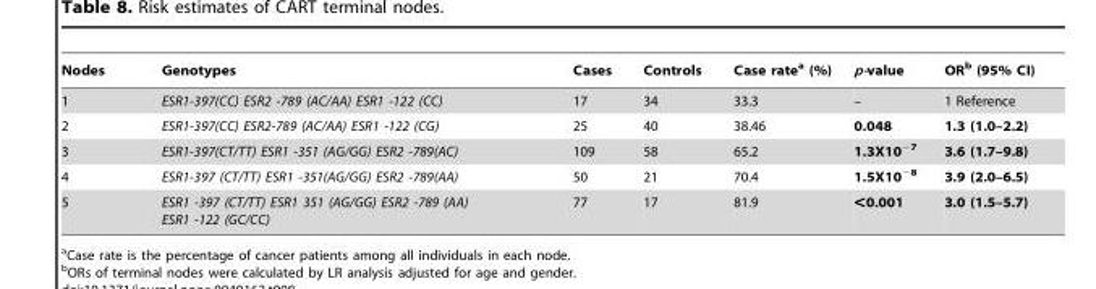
<table><thead><tr><td>Nodes</td><td>Genotypes</td><td>Cases</td><td>Controls</td><td>Case rate<sup>a</sup> (%)</td><td>p-value</td><td>OR<sup>b</sup> (95% CI)</td></tr></thead><tbody><tr><td>1</td><td>ESR1-397(CC) ESR2 -789 (AC/AA) ESR1 -122 (CC)</td><td>17</td><td>34</td><td>33.3</td><td>–</td><td>1 Reference</td></tr><tr><td>2</td><td>ESR1-397(CC) ESR2-789 (AC/AA) ESR1 -122 (CG)</td><td>25</td><td>40</td><td>38.46</td><td>0.048</td><td>1.3 (1.0–2.2)</td></tr><tr><td>3</td><td>ESR1-397(CT/TT) ESR1 -351 (AG/GG) ESR2 -789(AC)</td><td>109</td><td>58</td><td>65.2</td><td>1.3X10<sup>−7</sup></td><td>3.6 (1.7–9.8)</td></tr><tr><td>4</td><td>ESR1-397 (CT/TT) ESR1 -351(AG/GG) ESR2 -789(AA)</td><td>50</td><td>21</td><td>70.4</td><td>1.5X10<sup>−8</sup></td><td>3.9 (2.0–6.5)</td></tr><tr><td>5</td><td>ESR1 -397 (CT/TT) ESR1 351 (AG/GG) ESR2 -789 (AA) ESR1 -122 (GC/CC)</td><td>77</td><td>17</td><td>81.9</td><td>&lt;0.001</td><td>3.0 (1.5–5.7)</td></tr></tbody></table>